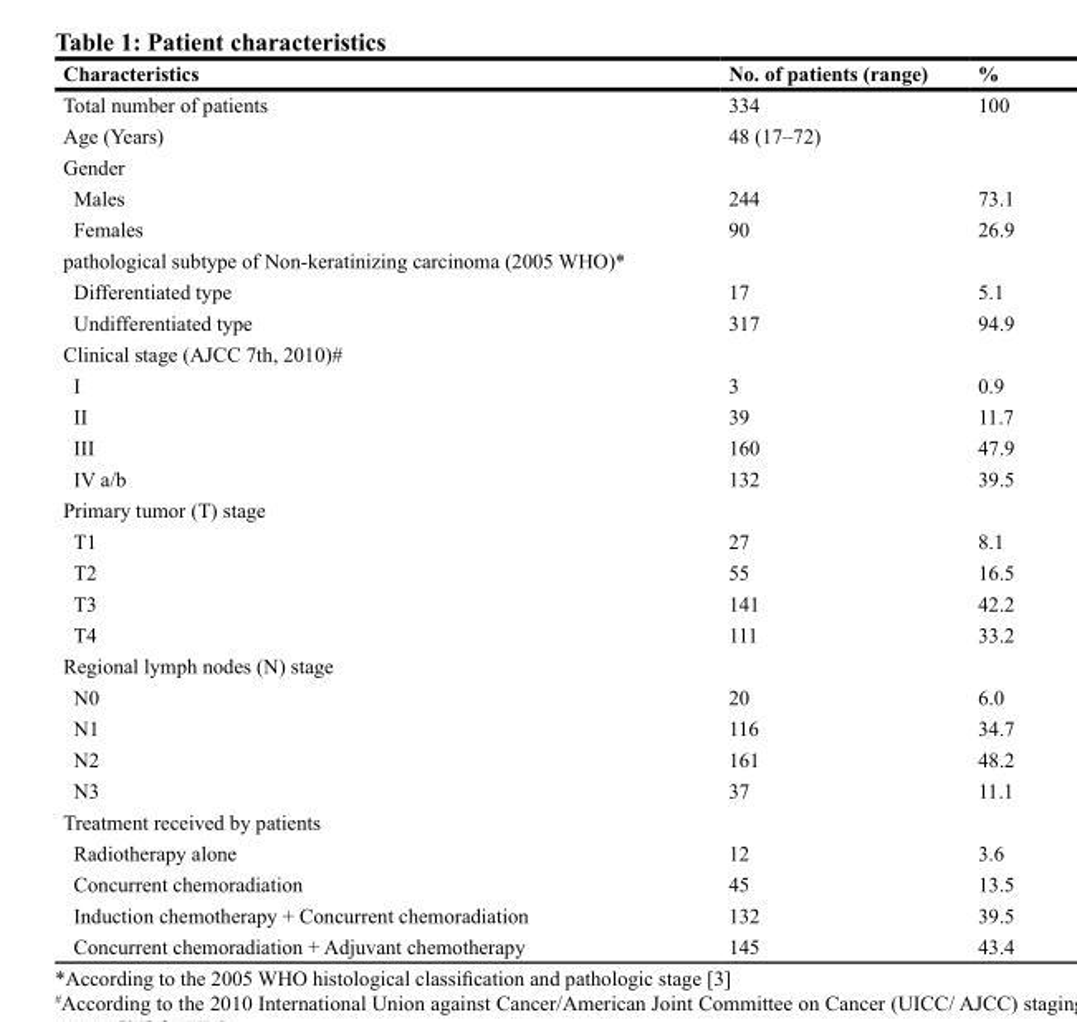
<table><thead><tr><td>Characteristics</td><td>No. of patients (range)</td><td>%</td></tr></thead><tbody><tr><td>Total number of patients</td><td>334</td><td>100</td></tr><tr><td>Age (Years)</td><td>48 (17–72)</td><td></td></tr><tr><td colspan="3">Gender</td></tr><tr><td>Males</td><td>244</td><td>73.1</td></tr><tr><td>Females</td><td>90</td><td>26.9</td></tr><tr><td colspan="3">pathological subtype of Non-keratinizing carcinoma (2005 WHO)*</td></tr><tr><td>Differentiated type</td><td>17</td><td>5.1</td></tr><tr><td>Undifferentiated type</td><td>317</td><td>94.9</td></tr><tr><td colspan="3">Clinical stage (AJCC 7th, 2010)#</td></tr><tr><td>I</td><td>3</td><td>0.9</td></tr><tr><td>II</td><td>39</td><td>11.7</td></tr><tr><td>III</td><td>160</td><td>47.9</td></tr><tr><td>IV a/b</td><td>132</td><td>39.5</td></tr><tr><td colspan="3">Primary tumor (T) stage</td></tr><tr><td>T1</td><td>27</td><td>8.1</td></tr><tr><td>T2</td><td>55</td><td>16.5</td></tr><tr><td>T3</td><td>141</td><td>42.2</td></tr><tr><td>T4</td><td>111</td><td>33.2</td></tr><tr><td colspan="3">Regional lymph nodes (N) stage</td></tr><tr><td>N0</td><td>20</td><td>6.0</td></tr><tr><td>N1</td><td>116</td><td>34.7</td></tr><tr><td>N2</td><td>161</td><td>48.2</td></tr><tr><td>N3</td><td>37</td><td>11.1</td></tr><tr><td colspan="3">Treatment received by patients</td></tr><tr><td>Radiotherapy alone</td><td>12</td><td>3.6</td></tr><tr><td>Concurrent chemoradiation</td><td>45</td><td>13.5</td></tr><tr><td>Induction chemotherapy + Concurrent chemoradiation</td><td>132</td><td>39.5</td></tr><tr><td>Concurrent chemoradiation + Adjuvant chemotherapy</td><td>145</td><td>43.4</td></tr></tbody></table>